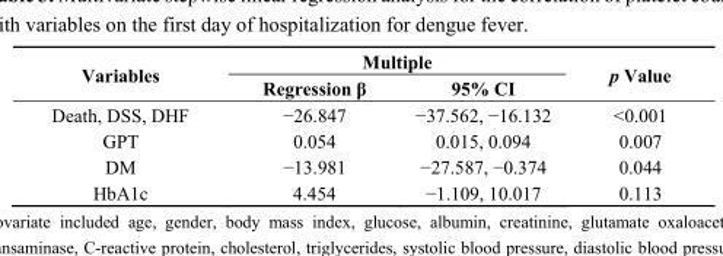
<table><thead><tr><td rowspan="2">Variables</td><td colspan="2">Multiple</td><td rowspan="2">p Value</td></tr><tr><td>Regression β</td><td>95% CI</td></tr></thead><tbody><tr><td>Death, DSS, DHF</td><td>−26.847</td><td>−37.562, −16.132</td><td>&lt;0.001</td></tr><tr><td>GPT</td><td>0.054</td><td>0.015, 0.094</td><td>0.007</td></tr><tr><td>DM</td><td>−13.981</td><td>−27.587, −0.374</td><td>0.044</td></tr><tr><td>HbA1c</td><td>4.454</td><td>−1.109, 10.017</td><td>0.113</td></tr></tbody></table>